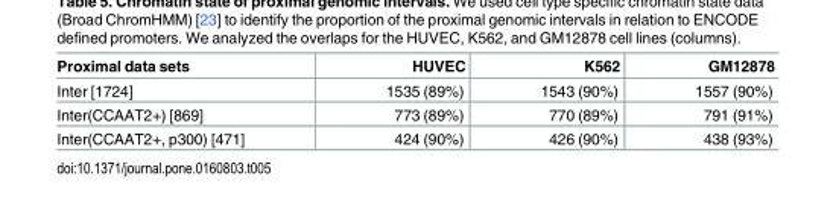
<table><thead><tr><td>Proximal data sets</td><td>HUVEC</td><td>K562</td><td>GM12878</td></tr></thead><tbody><tr><td>Inter [1724]</td><td>1535 (89%)</td><td>1543 (90%)</td><td>1557 (90%)</td></tr><tr><td>Inter(CCAAT2+) [869]</td><td>773 (89%)</td><td>770 (89%)</td><td>791 (91%)</td></tr><tr><td>Inter(CCAAT2+, p300) [471]</td><td>424 (90%)</td><td>426 (90%)</td><td>438 (93%)</td></tr></tbody></table>